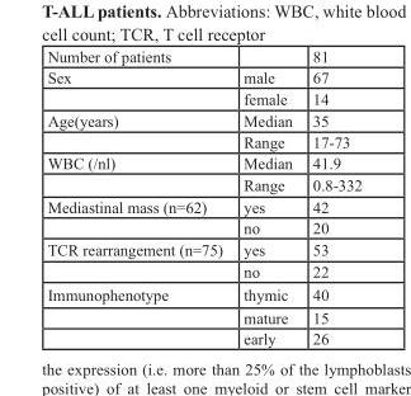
<table><thead><tr><td>Number of patients</td><td></td><td>81</td></tr></thead><tbody><tr><td rowspan="2">Sex</td><td>male</td><td>67</td></tr><tr><td>female</td><td>14</td></tr><tr><td rowspan="2">Age(years)</td><td>Median</td><td>35</td></tr><tr><td>Range</td><td>17-73</td></tr><tr><td rowspan="2">WBC (/nl)</td><td>Median</td><td>41.9</td></tr><tr><td>Range</td><td>0.8-332</td></tr><tr><td rowspan="2">Mediastinal mass (n=62)</td><td>yes</td><td>42</td></tr><tr><td>no</td><td>20</td></tr><tr><td rowspan="2">TCR rearrangement (n=75)</td><td>yes</td><td>53</td></tr><tr><td>no</td><td>22</td></tr><tr><td rowspan="3">Immunophenotype</td><td>thymic</td><td>40</td></tr><tr><td>mature</td><td>15</td></tr><tr><td>early</td><td>26</td></tr></tbody></table>